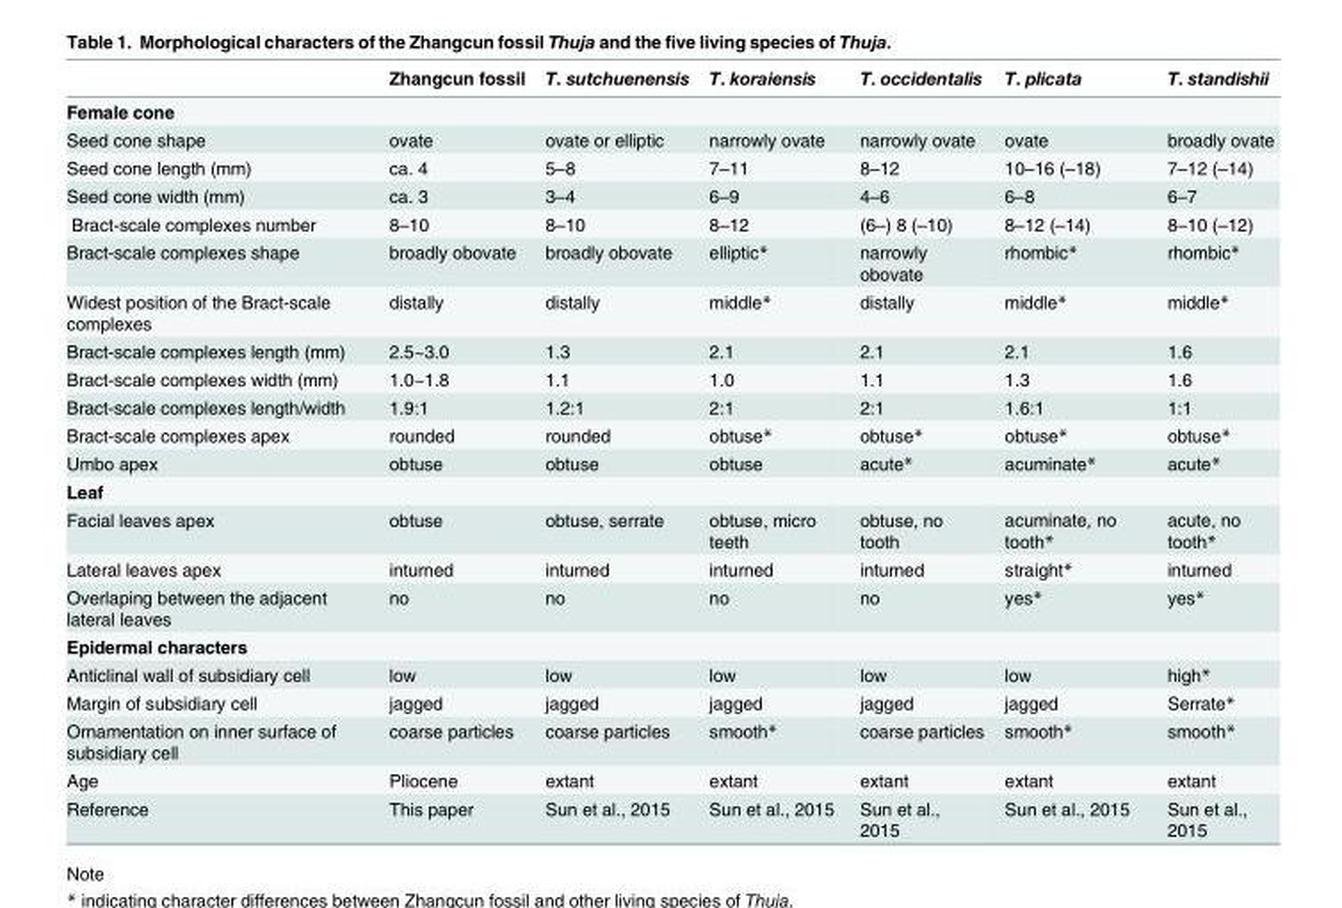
<table><thead><tr><td></td><td>Zhangcun fossil</td><td>T. sutchuenensis</td><td>T. koraiensis</td><td>T. occidentalis</td><td>T. plicata</td><td>T. standishii</td></tr></thead><tbody><tr><td colspan="7">Female cone</td></tr><tr><td>Seed cone shape</td><td>ovate</td><td>ovate or elliptic</td><td>narrowly ovate</td><td>narrowly ovate</td><td>ovate</td><td>broadly ovate</td></tr><tr><td>Seed cone length (mm)</td><td>ca. 4</td><td>5–8</td><td>7–11</td><td>8–12</td><td>10–16 (–18)</td><td>7–12 (–14)</td></tr><tr><td>Seed cone width (mm)</td><td>ca. 3</td><td>3–4</td><td>6–9</td><td>4–6</td><td>6–8</td><td>6–7</td></tr><tr><td>Bract-scale complexes number</td><td>8–10</td><td>8–10</td><td>8–12</td><td>(6–) 8 (–10)</td><td>8–12 (–14)</td><td>8–10 (–12)</td></tr><tr><td>Bract-scale complexes shape</td><td>broadly obovate</td><td>broadly obovate</td><td>elliptic*</td><td>narrowly obovate</td><td>rhombic*</td><td>rhombic*</td></tr><tr><td>Widest position of the Bract-scale complexes</td><td>distally</td><td>distally</td><td>middle*</td><td>distally</td><td>middle*</td><td>middle*</td></tr><tr><td>Bract-scale complexes length (mm)</td><td>2.5~3.0</td><td>1.3</td><td>2.1</td><td>2.1</td><td>2.1</td><td>1.6</td></tr><tr><td>Bract-scale complexes width (mm)</td><td>1.0~1.8</td><td>1.1</td><td>1.0</td><td>1.1</td><td>1.3</td><td>1.6</td></tr><tr><td>Bract-scale complexes length/width</td><td>1.9:1</td><td>1.2:1</td><td>2:1</td><td>2:1</td><td>1.6:1</td><td>1:1</td></tr><tr><td>Bract-scale complexes apex</td><td>rounded</td><td>rounded</td><td>obtuse*</td><td>obtuse*</td><td>obtuse*</td><td>obtuse*</td></tr><tr><td>Umbo apex</td><td>obtuse</td><td>obtuse</td><td>obtuse</td><td>acute*</td><td>acuminate*</td><td>acute*</td></tr><tr><td colspan="7">Leaf</td></tr><tr><td>Facial leaves apex</td><td>obtuse</td><td>obtuse, serrate</td><td>obtuse, micro teeth</td><td>obtuse, no tooth</td><td>acuminate, no tooth*</td><td>acute, no tooth*</td></tr><tr><td>Lateral leaves apex</td><td>inturned</td><td>inturned</td><td>inturned</td><td>inturned</td><td>straight*</td><td>inturned</td></tr><tr><td>Overlaping between the adjacent lateral leaves</td><td>no</td><td>no</td><td>no</td><td>no</td><td>yes*</td><td>yes*</td></tr><tr><td colspan="7">Epidermal characters</td></tr><tr><td>Anticlinal wall of subsidiary cell</td><td>low</td><td>low</td><td>low</td><td>low</td><td>low</td><td>high*</td></tr><tr><td>Margin of subsidiary cell</td><td>jagged</td><td>jagged</td><td>jagged</td><td>jagged</td><td>jagged</td><td>Serrate*</td></tr><tr><td>Ornamentation on inner surface of subsidiary cell</td><td>coarse particles</td><td>coarse particles</td><td>smooth*</td><td>coarse particles</td><td>smooth*</td><td>smooth*</td></tr><tr><td>Age</td><td>Pliocene</td><td>extant</td><td>extant</td><td>extant</td><td>extant</td><td>extant</td></tr><tr><td>Reference</td><td>This paper</td><td>Sun et al., 2015</td><td>Sun et al., 2015</td><td>Sun et al., 2015</td><td>Sun et al., 2015</td><td>Sun et al., 2015</td></tr></tbody></table>